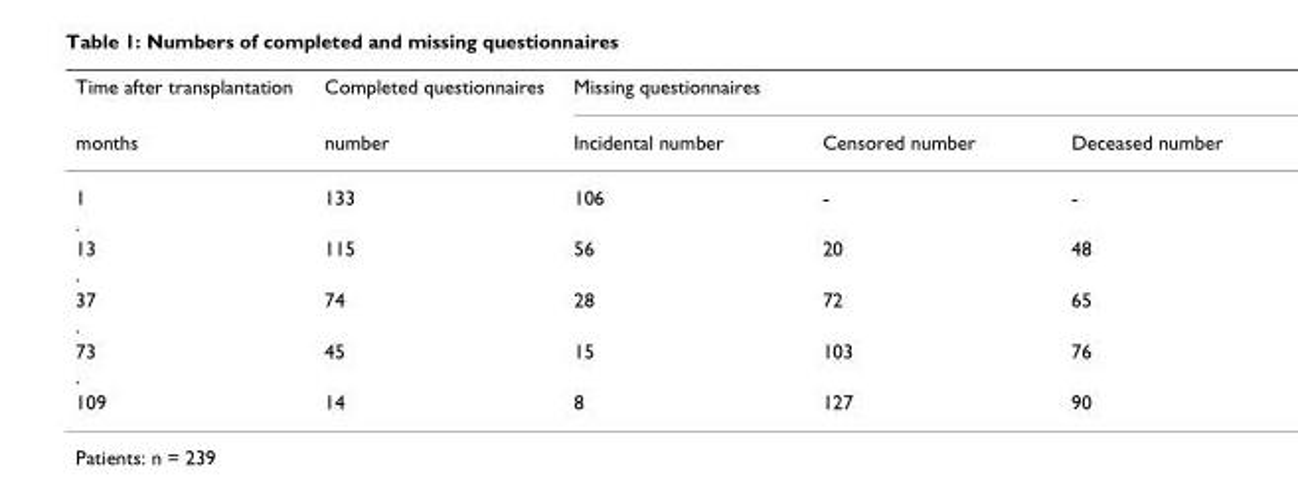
<table><thead><tr><td rowspan="2">Time after transplantation months</td><td rowspan="2">Completed questionnaires number</td><td colspan="3">Missing questionnaires</td></tr><tr><td>Incidental number</td><td>Censored number</td><td>Deceased number</td></tr></thead><tbody><tr><td>1</td><td>133</td><td>106</td><td>-</td><td>-</td></tr><tr><td colspan="5">.</td></tr><tr><td>13</td><td>115</td><td>56</td><td>20</td><td>48</td></tr><tr><td colspan="5">.</td></tr><tr><td>37</td><td>74</td><td>28</td><td>72</td><td>65</td></tr><tr><td colspan="5">.</td></tr><tr><td>73</td><td>45</td><td>15</td><td>103</td><td>76</td></tr><tr><td colspan="5">.</td></tr><tr><td>109</td><td>14</td><td>8</td><td>127</td><td>90</td></tr></tbody></table>